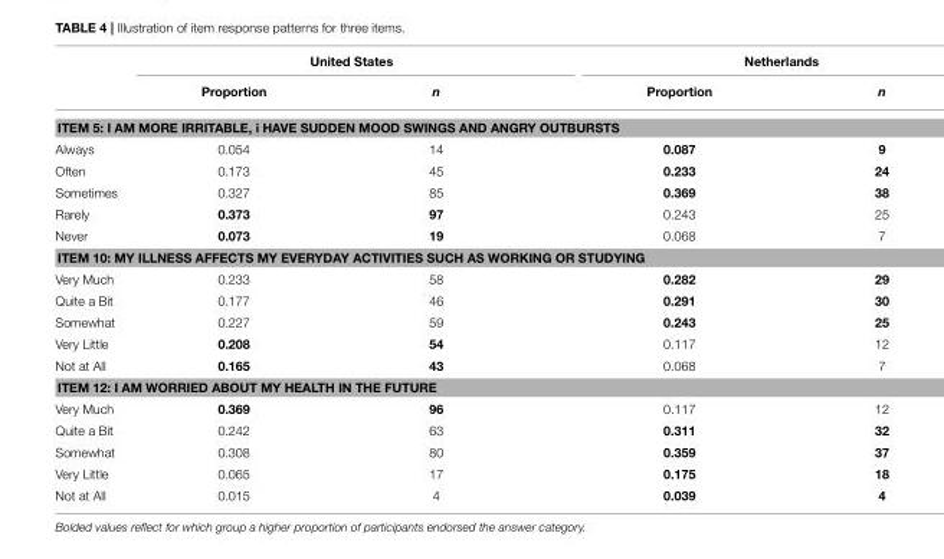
<table><thead><tr><td rowspan="2"></td><td colspan="2">United States</td><td colspan="2">Netherlands</td></tr><tr><td>Proportion</td><td>n</td><td>Proportion</td><td>n</td></tr></thead><tbody><tr><td colspan="5">ITEM 5: I AM MORE IRRITABLE, i HAVE SUDDEN MOOD SWINGS AND ANGRY OUTBURSTS</td></tr><tr><td>Always</td><td>0.054</td><td>14</td><td>0.087</td><td>9</td></tr><tr><td>Often</td><td>0.173</td><td>45</td><td>0.233</td><td>24</td></tr><tr><td>Sometimes</td><td>0.327</td><td>85</td><td>0.369</td><td>38</td></tr><tr><td>Rarely</td><td>0.373</td><td>97</td><td>0.243</td><td>25</td></tr><tr><td>Never</td><td>0.073</td><td>19</td><td>0.068</td><td>7</td></tr><tr><td colspan="5">ITEM 10: MY ILLNESS AFFECTS MY EVERYDAY ACTIVITIES SUCH AS WORKING OR STUDYING</td></tr><tr><td>Very Much</td><td>0.233</td><td>58</td><td>0.282</td><td>29</td></tr><tr><td>Quite a Bit</td><td>0.177</td><td>46</td><td>0.291</td><td>30</td></tr><tr><td>Somewhat</td><td>0.227</td><td>59</td><td>0.243</td><td>25</td></tr><tr><td>Very Little</td><td>0.208</td><td>54</td><td>0.117</td><td>12</td></tr><tr><td>Not at All</td><td>0.165</td><td>43</td><td>0.068</td><td>7</td></tr><tr><td colspan="5">ITEM 12: I AM WORRIED ABOUT MY HEALTH IN THE FUTURE</td></tr><tr><td>Very Much</td><td>0.369</td><td>96</td><td>0.117</td><td>12</td></tr><tr><td>Quite a Bit</td><td>0.242</td><td>63</td><td>0.311</td><td>32</td></tr><tr><td>Somewhat</td><td>0.308</td><td>80</td><td>0.359</td><td>37</td></tr><tr><td>Very Little</td><td>0.065</td><td>17</td><td>0.175</td><td>18</td></tr><tr><td>Not at All</td><td>0.015</td><td>4</td><td>0.039</td><td>4</td></tr></tbody></table>